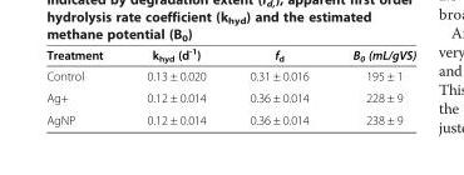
<table><thead><tr><td>Treatment</td><td>k<sub>hyd</sub> (d<sup>-1</sup>)</td><td>f<sub>d</sub></td><td>B<sub>0</sub> (mL/gVS)</td></tr></thead><tbody><tr><td>Control</td><td>0.13 ± 0.020</td><td>0.31 ± 0.016</td><td>195 ± 1</td></tr><tr><td>Ag+</td><td>0.12 ± 0.014</td><td>0.36 ± 0.014</td><td>228 ± 9</td></tr><tr><td>AgNP</td><td>0.12 ± 0.014</td><td>0.36 ± 0.014</td><td>238 ± 9</td></tr></tbody></table>